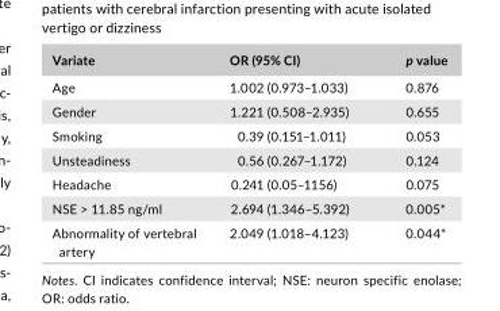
<table><thead><tr><td>Variate</td><td>OR (95% CI)</td><td>p value</td></tr></thead><tbody><tr><td>Age</td><td>1.002 (0.973–1.033)</td><td>0.876</td></tr><tr><td>Gender</td><td>1.221 (0.508–2.935)</td><td>0.655</td></tr><tr><td>Smoking</td><td>0.39 (0.151–1.011)</td><td>0.053</td></tr><tr><td>Unsteadiness</td><td>0.56 (0.267–1.172)</td><td>0.124</td></tr><tr><td>Headache</td><td>0.241 (0.05–1156)</td><td>0.075</td></tr><tr><td>NSE &gt; 11.85 ng/ml</td><td>2.694 (1.346–5.392)</td><td>0.005*</td></tr><tr><td>Abnormality of vertebral artery</td><td>2.049 (1.018–4.123)</td><td>0.044*</td></tr></tbody></table>